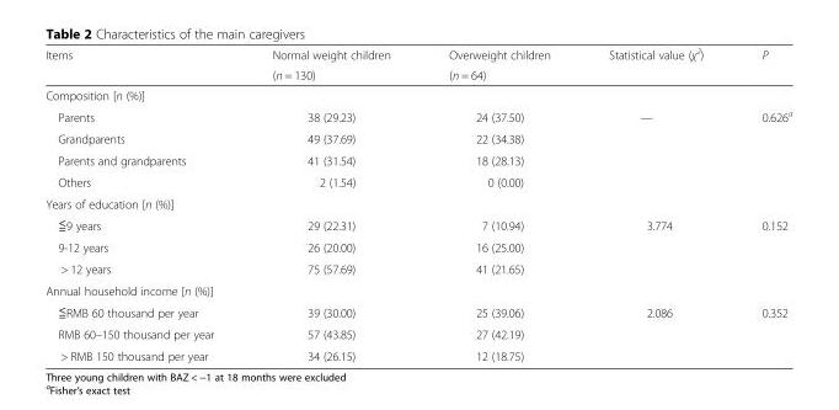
<table><thead><tr><td rowspan="2">Items</td><td rowspan="2">Normal weight children (n = 130)</td><td rowspan="2">Overweight children (n = 64)</td><td rowspan="2">Statistical value (χ<sup>2</sup>)</td><td rowspan="2">P</td></tr><tr></tr></thead><tbody><tr><td colspan="5">Composition [n (%)]</td></tr><tr><td>Parents</td><td>38 (29.23)</td><td>24 (37.50)</td><td>—</td><td>0.626<sup>a</sup></td></tr><tr><td>Grandparents</td><td>49 (37.69)</td><td>22 (34.38)</td><td></td><td></td></tr><tr><td>Parents and grandparents</td><td>41 (31.54)</td><td>18 (28.13)</td><td></td><td></td></tr><tr><td>Others</td><td>2 (1.54)</td><td>0 (0.00)</td><td></td><td></td></tr><tr><td colspan="5">Years of education [n (%)]</td></tr><tr><td>≦9 years</td><td>29 (22.31)</td><td>7 (10.94)</td><td>3.774</td><td>0.152</td></tr><tr><td>9-12 years</td><td>26 (20.00)</td><td>16 (25.00)</td><td></td><td></td></tr><tr><td>&gt; 12 years</td><td>75 (57.69)</td><td>41 (21.65)</td><td></td><td></td></tr><tr><td colspan="5">Annual household income [n (%)]</td></tr><tr><td>≦RMB 60 thousand per year</td><td>39 (30.00)</td><td>25 (39.06)</td><td>2.086</td><td>0.352</td></tr><tr><td>RMB 60–150 thousand per year</td><td>57 (43.85)</td><td>27 (42.19)</td><td></td><td></td></tr><tr><td>&gt; RMB 150 thousand per year</td><td>34 (26.15)</td><td>12 (18.75)</td><td></td><td></td></tr></tbody></table>